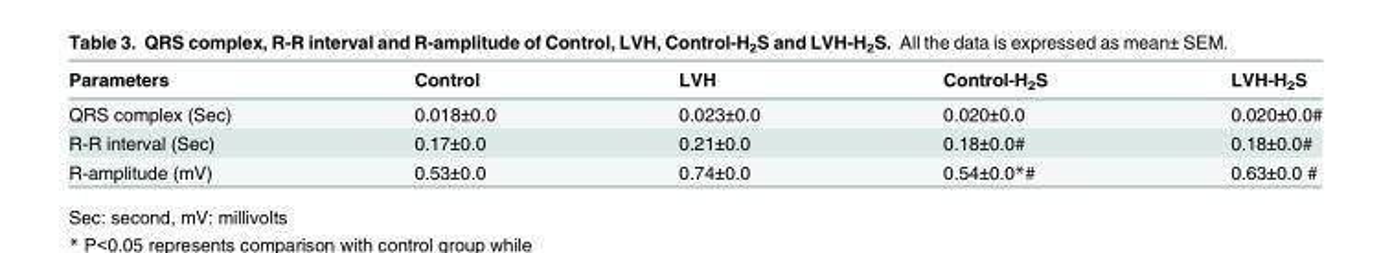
<table><thead><tr><td>Parameters</td><td>Control</td><td>LVH</td><td>Control-H<sub>2</sub>S</td><td>LVH-H<sub>2</sub>S</td></tr></thead><tbody><tr><td>QRS complex (Sec)</td><td>0.018±0.0</td><td>0.023±0.0</td><td>0.020±0.0</td><td>0.020±0.0#</td></tr><tr><td>R-R interval (Sec)</td><td>0.17±0.0</td><td>0.21±0.0</td><td>0.18±0.0#</td><td>0.18±0.0#</td></tr><tr><td>R-amplitude (mV)</td><td>0.53±0.0</td><td>0.74±0.0</td><td>0.54±0.0*#</td><td>0.63±0.0 #</td></tr></tbody></table>